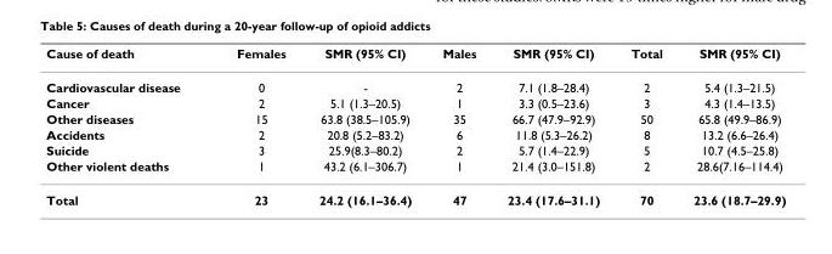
<table><thead><tr><td>Cause of death</td><td>Females</td><td>SMR (95% CI)</td><td>Males</td><td>SMR (95% CI)</td><td>Total</td><td>SMR (95% CI)</td></tr></thead><tbody><tr><td>Cardiovascular disease</td><td>0</td><td>-</td><td>2</td><td>7.1 (1.8–28.4)</td><td>2</td><td>5.4 (1.3–21.5)</td></tr><tr><td>Cancer</td><td>2</td><td>5.1 (1.3–20.5)</td><td>1</td><td>3.3 (0.5–23.6)</td><td>3</td><td>4.3 (1.4–13.5)</td></tr><tr><td>Other diseases</td><td>15</td><td>63.8 (38.5–105.9)</td><td>35</td><td>66.7 (47.9–92.9)</td><td>50</td><td>65.8 (49.9–86.9)</td></tr><tr><td>Accidents</td><td>2</td><td>20.8 (5.2–83.2)</td><td>6</td><td>11.8 (5.3–26.2)</td><td>8</td><td>13.2 (6.6–26.4)</td></tr><tr><td>Suicide</td><td>3</td><td>25.9(8.3–80.2)</td><td>2</td><td>5.7 (1.4–22.9)</td><td>5</td><td>10.7 (4.5–25.8)</td></tr><tr><td>Other violent deaths</td><td>1</td><td>43.2 (6.1–306.7)</td><td>1</td><td>21.4 (3.0–151.8)</td><td>2</td><td>28.6(7.16–114.4)</td></tr><tr><td>Total</td><td>23</td><td>24.2 (16.1–36.4)</td><td>47</td><td>23.4 (17.6–31.1)</td><td>70</td><td>23.6 (18.7–29.9)</td></tr></tbody></table>